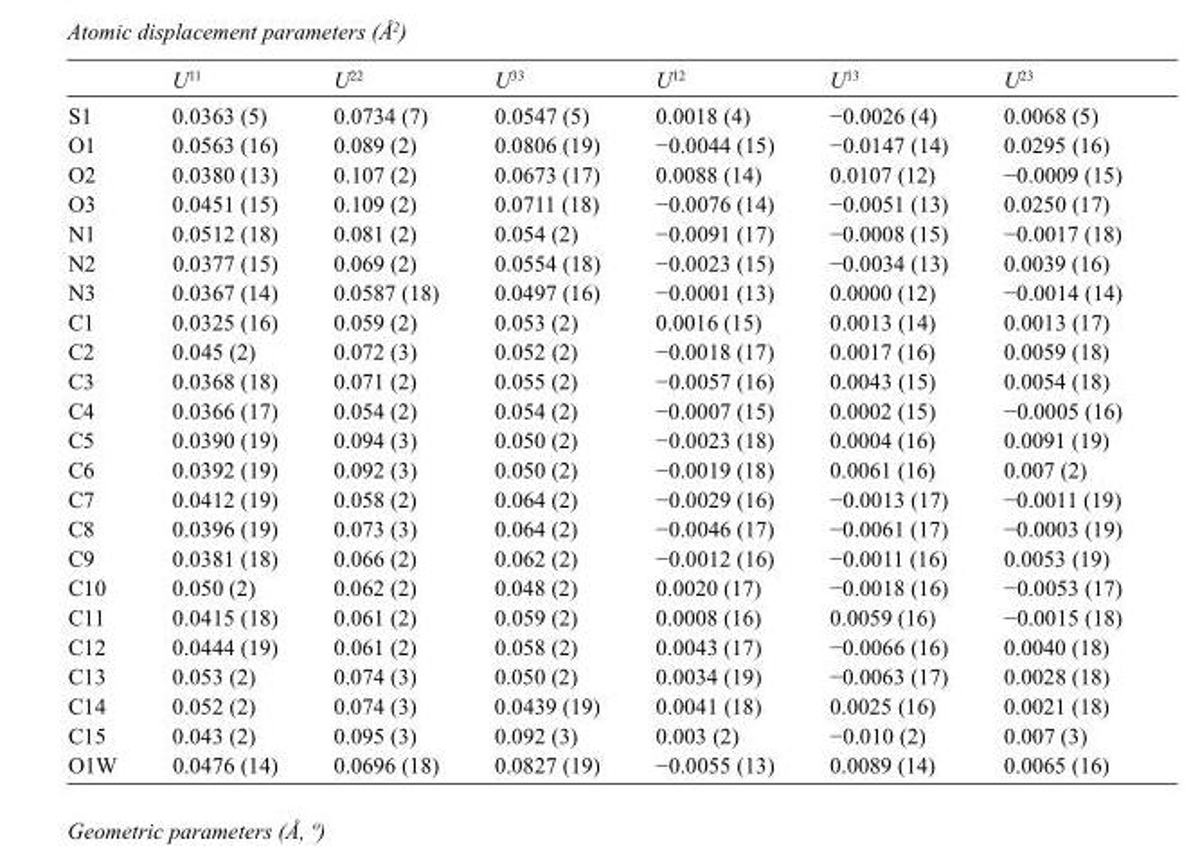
<table><thead><tr><td></td><td>U<sup>11</sup></td><td>U<sup>22</sup></td><td>U<sup>33</sup></td><td>U<sup>12</sup></td><td>U<sup>13</sup></td><td>U<sup>23</sup></td></tr></thead><tbody><tr><td>S1</td><td>0.0363 (5)</td><td>0.0734 (7)</td><td>0.0547 (5)</td><td>0.0018 (4)</td><td>−0.0026 (4)</td><td>0.0068 (5)</td></tr><tr><td>O1</td><td>0.0563 (16)</td><td>0.089 (2)</td><td>0.0806 (19)</td><td>−0.0044 (15)</td><td>−0.0147 (14)</td><td>0.0295 (16)</td></tr><tr><td>O2</td><td>0.0380 (13)</td><td>0.107 (2)</td><td>0.0673 (17)</td><td>0.0088 (14)</td><td>0.0107 (12)</td><td>−0.0009 (15)</td></tr><tr><td>O3</td><td>0.0451 (15)</td><td>0.109 (2)</td><td>0.0711 (18)</td><td>−0.0076 (14)</td><td>−0.0051 (13)</td><td>0.0250 (17)</td></tr><tr><td>N1</td><td>0.0512 (18)</td><td>0.081 (2)</td><td>0.054 (2)</td><td>−0.0091 (17)</td><td>−0.0008 (15)</td><td>−0.0017 (18)</td></tr><tr><td>N2</td><td>0.0377 (15)</td><td>0.069 (2)</td><td>0.0554 (18)</td><td>−0.0023 (15)</td><td>−0.0034 (13)</td><td>0.0039 (16)</td></tr><tr><td>N3</td><td>0.0367 (14)</td><td>0.0587 (18)</td><td>0.0497 (16)</td><td>−0.0001 (13)</td><td>0.0000 (12)</td><td>−0.0014 (14)</td></tr><tr><td>C1</td><td>0.0325 (16)</td><td>0.059 (2)</td><td>0.053 (2)</td><td>0.0016 (15)</td><td>0.0013 (14)</td><td>0.0013 (17)</td></tr><tr><td>C2</td><td>0.045 (2)</td><td>0.072 (3)</td><td>0.052 (2)</td><td>−0.0018 (17)</td><td>0.0017 (16)</td><td>0.0059 (18)</td></tr><tr><td>C3</td><td>0.0368 (18)</td><td>0.071 (2)</td><td>0.055 (2)</td><td>−0.0057 (16)</td><td>0.0043 (15)</td><td>0.0054 (18)</td></tr><tr><td>C4</td><td>0.0366 (17)</td><td>0.054 (2)</td><td>0.054 (2)</td><td>−0.0007 (15)</td><td>0.0002 (15)</td><td>−0.0005 (16)</td></tr><tr><td>C5</td><td>0.0390 (19)</td><td>0.094 (3)</td><td>0.050 (2)</td><td>−0.0023 (18)</td><td>0.0004 (16)</td><td>0.0091 (19)</td></tr><tr><td>C6</td><td>0.0392 (19)</td><td>0.092 (3)</td><td>0.050 (2)</td><td>−0.0019 (18)</td><td>0.0061 (16)</td><td>0.007 (2)</td></tr><tr><td>C7</td><td>0.0412 (19)</td><td>0.058 (2)</td><td>0.064 (2)</td><td>−0.0029 (16)</td><td>−0.0013 (17)</td><td>−0.0011 (19)</td></tr><tr><td>C8</td><td>0.0396 (19)</td><td>0.073 (3)</td><td>0.064 (2)</td><td>−0.0046 (17)</td><td>−0.0061 (17)</td><td>−0.0003 (19)</td></tr><tr><td>C9</td><td>0.0381 (18)</td><td>0.066 (2)</td><td>0.062 (2)</td><td>−0.0012 (16)</td><td>−0.0011 (16)</td><td>0.0053 (19)</td></tr><tr><td>C10</td><td>0.050 (2)</td><td>0.062 (2)</td><td>0.048 (2)</td><td>0.0020 (17)</td><td>−0.0018 (16)</td><td>−0.0053 (17)</td></tr><tr><td>C11</td><td>0.0415 (18)</td><td>0.061 (2)</td><td>0.059 (2)</td><td>0.0008 (16)</td><td>0.0059 (16)</td><td>−0.0015 (18)</td></tr><tr><td>C12</td><td>0.0444 (19)</td><td>0.061 (2)</td><td>0.058 (2)</td><td>0.0043 (17)</td><td>−0.0066 (16)</td><td>0.0040 (18)</td></tr><tr><td>C13</td><td>0.053 (2)</td><td>0.074 (3)</td><td>0.050 (2)</td><td>0.0034 (19)</td><td>−0.0063 (17)</td><td>0.0028 (18)</td></tr><tr><td>C14</td><td>0.052 (2)</td><td>0.074 (3)</td><td>0.0439 (19)</td><td>0.0041 (18)</td><td>0.0025 (16)</td><td>0.0021 (18)</td></tr><tr><td>C15</td><td>0.043 (2)</td><td>0.095 (3)</td><td>0.092 (3)</td><td>0.003 (2)</td><td>−0.010 (2)</td><td>0.007 (3)</td></tr><tr><td>O1W</td><td>0.0476 (14)</td><td>0.0696 (18)</td><td>0.0827 (19)</td><td>−0.0055 (13)</td><td>0.0089 (14)</td><td>0.0065 (16)</td></tr></tbody></table>